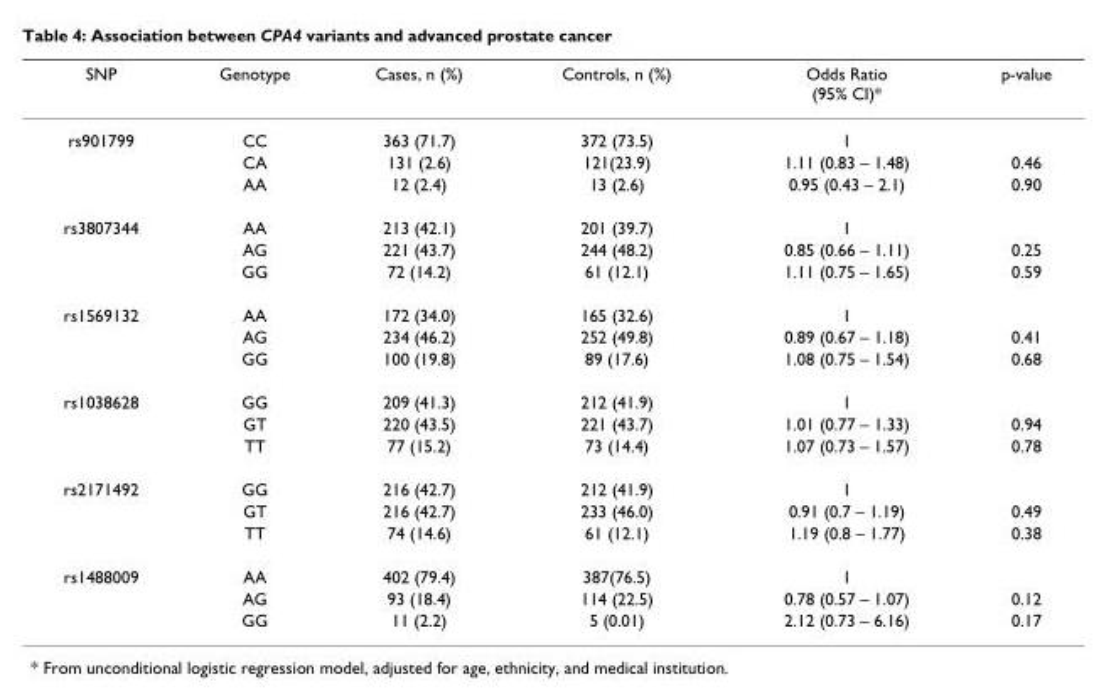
<table><thead><tr><td>SNP</td><td>Genotype</td><td>Cases, n (%)</td><td>Controls, n (%)</td><td>Odds Ratio (95% CI)*</td><td>p-value</td></tr></thead><tbody><tr><td rowspan="3">rs901799</td><td>CC</td><td>363 (71.7)</td><td>372 (73.5)</td><td>1</td><td></td></tr><tr><td>CA</td><td>131 (2.6)</td><td>121(23.9)</td><td>1.11 (0.83 – 1.48)</td><td>0.46</td></tr><tr><td>AA</td><td>12 (2.4)</td><td>13 (2.6)</td><td>0.95 (0.43 – 2.1)</td><td>0.90</td></tr><tr><td rowspan="3">rs3807344</td><td>AA</td><td>213 (42.1)</td><td>201 (39.7)</td><td>1</td><td></td></tr><tr><td>AG</td><td>221 (43.7)</td><td>244 (48.2)</td><td>0.85 (0.66 – 1.11)</td><td>0.25</td></tr><tr><td>GG</td><td>72 (14.2)</td><td>61 (12.1)</td><td>1.11 (0.75 – 1.65)</td><td>0.59</td></tr><tr><td rowspan="3">rs1569132</td><td>AA</td><td>172 (34.0)</td><td>165 (32.6)</td><td>1</td><td></td></tr><tr><td>AG</td><td>234 (46.2)</td><td>252 (49.8)</td><td>0.89 (0.67 – 1.18)</td><td>0.41</td></tr><tr><td>GG</td><td>100 (19.8)</td><td>89 (17.6)</td><td>1.08 (0.75 – 1.54)</td><td>0.68</td></tr><tr><td rowspan="3">rs1038628</td><td>GG</td><td>209 (41.3)</td><td>212 (41.9)</td><td>1</td><td></td></tr><tr><td>GT</td><td>220 (43.5)</td><td>221 (43.7)</td><td>1.01 (0.77 – 1.33)</td><td>0.94</td></tr><tr><td>TT</td><td>77 (15.2)</td><td>73 (14.4)</td><td>1.07 (0.73 – 1.57)</td><td>0.78</td></tr><tr><td rowspan="3">rs2171492</td><td>GG</td><td>216 (42.7)</td><td>212 (41.9)</td><td>1</td><td></td></tr><tr><td>GT</td><td>216 (42.7)</td><td>233 (46.0)</td><td>0.91 (0.7 – 1.19)</td><td>0.49</td></tr><tr><td>TT</td><td>74 (14.6)</td><td>61 (12.1)</td><td>1.19 (0.8 – 1.77)</td><td>0.38</td></tr><tr><td rowspan="3">rs1488009</td><td>AA</td><td>402 (79.4)</td><td>387(76.5)</td><td>1</td><td></td></tr><tr><td>AG</td><td>93 (18.4)</td><td>114 (22.5)</td><td>0.78 (0.57 – 1.07)</td><td>0.12</td></tr><tr><td>GG</td><td>11 (2.2)</td><td>5 (0.01)</td><td>2.12 (0.73 – 6.16)</td><td>0.17</td></tr></tbody></table>